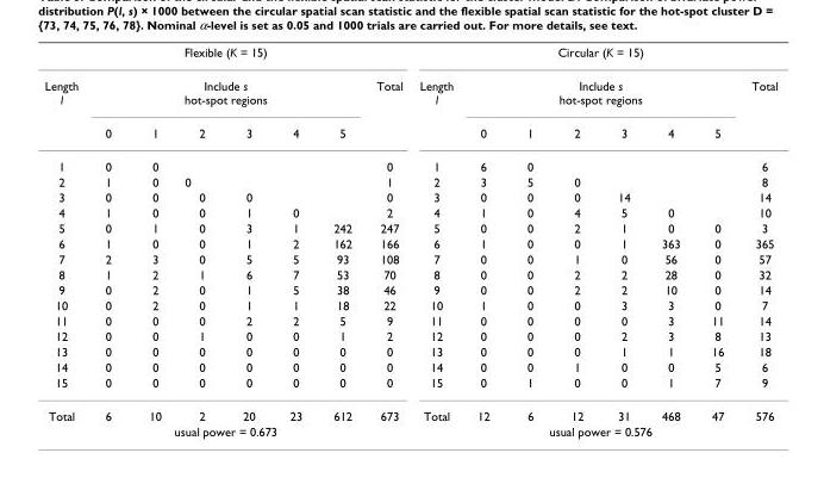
<table><tbody><tr><td colspan="8">Flexible (K = 15)</td><td colspan="8">Circular (K = 15)</td></tr><tr><td rowspan="2">Length l</td><td colspan="6">Include s hot-spot regions</td><td>Total</td><td>Length l</td><td colspan="6">Include s hot-spot regions</td><td>Total</td></tr><tr><td>0</td><td>1</td><td>2</td><td>3</td><td>4</td><td>5</td><td></td><td></td><td>0</td><td>1</td><td>2</td><td>3</td><td>4</td><td>5</td><td></td></tr><tr><td>1</td><td>0</td><td>0</td><td></td><td></td><td></td><td></td><td>0</td><td>1</td><td>6</td><td>0</td><td></td><td></td><td></td><td></td><td>6</td></tr><tr><td>2</td><td>1</td><td>0</td><td>0</td><td></td><td></td><td></td><td>1</td><td>2</td><td>3</td><td>5</td><td>0</td><td></td><td></td><td></td><td>8</td></tr><tr><td>3</td><td>0</td><td>0</td><td>0</td><td>0</td><td></td><td></td><td>0</td><td>3</td><td>0</td><td>0</td><td>0</td><td>14</td><td></td><td></td><td>14</td></tr><tr><td>4</td><td>1</td><td>0</td><td>0</td><td>1</td><td>0</td><td></td><td>2</td><td>4</td><td>1</td><td>0</td><td>4</td><td>5</td><td>0</td><td></td><td>10</td></tr><tr><td>5</td><td>0</td><td>1</td><td>0</td><td>3</td><td>1</td><td>242</td><td>247</td><td>5</td><td>0</td><td>0</td><td>2</td><td>1</td><td>0</td><td>0</td><td>3</td></tr><tr><td>6</td><td>1</td><td>0</td><td>0</td><td>1</td><td>2</td><td>162</td><td>166</td><td>6</td><td>1</td><td>0</td><td>0</td><td>1</td><td>363</td><td>0</td><td>365</td></tr><tr><td>7</td><td>2</td><td>3</td><td>0</td><td>5</td><td>5</td><td>93</td><td>108</td><td>7</td><td>0</td><td>0</td><td>1</td><td>0</td><td>56</td><td>0</td><td>57</td></tr><tr><td>8</td><td>1</td><td>2</td><td>1</td><td>6</td><td>7</td><td>53</td><td>70</td><td>8</td><td>0</td><td>0</td><td>2</td><td>2</td><td>28</td><td>0</td><td>32</td></tr><tr><td>9</td><td>0</td><td>2</td><td>0</td><td>1</td><td>5</td><td>38</td><td>46</td><td>9</td><td>0</td><td>0</td><td>2</td><td>2</td><td>10</td><td>0</td><td>14</td></tr><tr><td>10</td><td>0</td><td>2</td><td>0</td><td>1</td><td>1</td><td>18</td><td>22</td><td>10</td><td>1</td><td>0</td><td>0</td><td>3</td><td>3</td><td>0</td><td>7</td></tr><tr><td>11</td><td>0</td><td>0</td><td>0</td><td>2</td><td>2</td><td>5</td><td>9</td><td>11</td><td>0</td><td>0</td><td>0</td><td>0</td><td>3</td><td>11</td><td>14</td></tr><tr><td>12</td><td>0</td><td>0</td><td>1</td><td>0</td><td>0</td><td>1</td><td>2</td><td>12</td><td>0</td><td>0</td><td>0</td><td>2</td><td>3</td><td>8</td><td>13</td></tr><tr><td>13</td><td>0</td><td>0</td><td>0</td><td>0</td><td>0</td><td>0</td><td>0</td><td>13</td><td>0</td><td>0</td><td>0</td><td>1</td><td>1</td><td>16</td><td>18</td></tr><tr><td>14</td><td>0</td><td>0</td><td>0</td><td>0</td><td>0</td><td>0</td><td>0</td><td>14</td><td>0</td><td>0</td><td>1</td><td>0</td><td>0</td><td>5</td><td>6</td></tr><tr><td>15</td><td>0</td><td>0</td><td>0</td><td>0</td><td>0</td><td>0</td><td>0</td><td>15</td><td>0</td><td>1</td><td>0</td><td>0</td><td>1</td><td>7</td><td>9</td></tr><tr><td rowspan="2">Total</td><td>6</td><td>10</td><td>2</td><td>20</td><td>23</td><td>612</td><td>673</td><td>Total</td><td>12</td><td>6</td><td>12</td><td>31</td><td>468</td><td>47</td><td>576</td></tr><tr><td colspan="6">usual power = 0.673</td><td></td><td></td><td colspan="6">usual power = 0.576</td><td></td></tr></tbody></table>